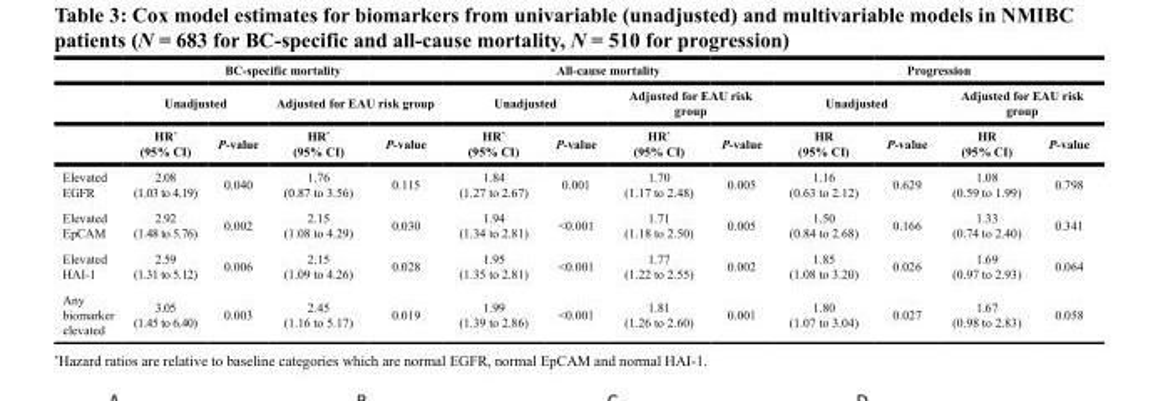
<table><thead><tr><td rowspan="3"></td><td colspan="4">BC-specific mortality</td><td colspan="4">All-cause mortality</td><td colspan="4">Progression</td></tr><tr><td colspan="2">Unadjusted</td><td colspan="2">Adjusted for EAU risk group</td><td colspan="2">Unadjusted</td><td colspan="2">Adjusted for EAU risk group</td><td colspan="2">Unadjusted</td><td colspan="2">Adjusted for EAU risk group</td></tr><tr><td>HR* (95% CI)</td><td>P-value</td><td>HR* (95% CI)</td><td>P-value</td><td>HR* (95% CI)</td><td>P-value</td><td>HR* (95% CI)</td><td>P-value</td><td>HR (95% CI)</td><td>P-value</td><td>HR (95% CI)</td><td>P-value</td></tr></thead><tbody><tr><td>Elevated EGFR</td><td>2.08 (1.03 to 4.19)</td><td>0.040</td><td>1.76 (0.87 to 3.56)</td><td>0.115</td><td>1.84 (1.27 to 2.67)</td><td>0.001</td><td>1.70 (1.17 to 2.48)</td><td>0.005</td><td>1.16 (0.63 to 2.12)</td><td>0.629</td><td>1.08 (0.59 to 1.99)</td><td>0.798</td></tr><tr><td>Elevated EpCAM</td><td>2.92 (1.48 to 5.76)</td><td>0.002</td><td>2.15 (1.08 to 4.29)</td><td>0.030</td><td>1.94 (1.34 to 2.81)</td><td>&lt;0.001</td><td>1.71 (1.18 to 2.50)</td><td>0.005</td><td>1.50 (0.84 to 2.68)</td><td>0.166</td><td>1.33 (0.74 to 2.40)</td><td>0.341</td></tr><tr><td>Elevated HAI-1</td><td>2.59 (1.31 to 5.12)</td><td>0.006</td><td>2.15 (1.09 to 4.26)</td><td>0.028</td><td>1.95 (1.35 to 2.81)</td><td>&lt;0.001</td><td>1.77 (1.22 to 2.55)</td><td>0.002</td><td>1.85 (1.08 to 3.20)</td><td>0.026</td><td>1.69 (0.97 to 2.93)</td><td>0.064</td></tr><tr><td>Any biomarker elevated</td><td>3.05 (1.45 to 6.40)</td><td>0.003</td><td>2.45 (1.16 to 5.17)</td><td>0.019</td><td>1.99 (1.39 to 2.86)</td><td>&lt;0.001</td><td>1.81 (1.26 to 2.60)</td><td>0.001</td><td>1.80 (1.07 to 3.04)</td><td>0.027</td><td>1.67 (0.98 to 2.83)</td><td>0.058</td></tr></tbody></table>